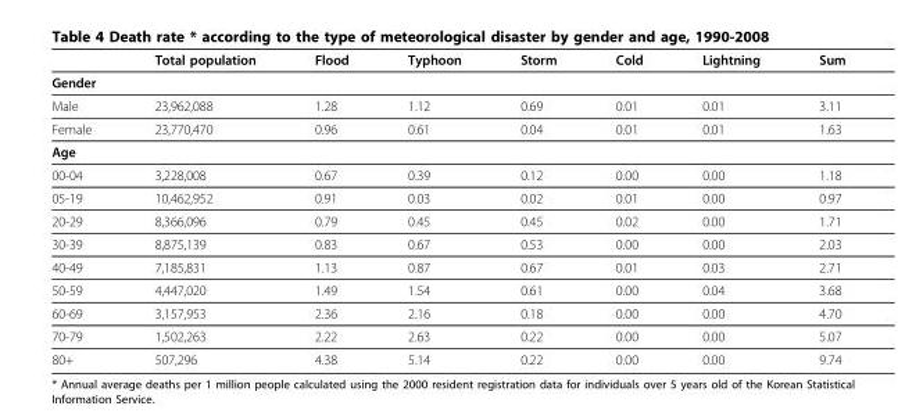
<table><thead><tr><td></td><td>Total population</td><td>Flood</td><td>Typhoon</td><td>Storm</td><td>Cold</td><td>Lightning</td><td>Sum</td></tr></thead><tbody><tr><td colspan="8">Gender</td></tr><tr><td>Male</td><td>23,962,088</td><td>1.28</td><td>1.12</td><td>0.69</td><td>0.01</td><td>0.01</td><td>3.11</td></tr><tr><td>Female</td><td>23,770,470</td><td>0.96</td><td>0.61</td><td>0.04</td><td>0.01</td><td>0.01</td><td>1.63</td></tr><tr><td colspan="8">Age</td></tr><tr><td>00-04</td><td>3,228,008</td><td>0.67</td><td>0.39</td><td>0.12</td><td>0.00</td><td>0.00</td><td>1.18</td></tr><tr><td>05-19</td><td>10,462,952</td><td>0.91</td><td>0.03</td><td>0.02</td><td>0.01</td><td>0.00</td><td>0.97</td></tr><tr><td>20-29</td><td>8,366,096</td><td>0.79</td><td>0.45</td><td>0.45</td><td>0.02</td><td>0.00</td><td>1.71</td></tr><tr><td>30-39</td><td>8,875,139</td><td>0.83</td><td>0.67</td><td>0.53</td><td>0.00</td><td>0.00</td><td>2.03</td></tr><tr><td>40-49</td><td>7,185,831</td><td>1.13</td><td>0.87</td><td>0.67</td><td>0.01</td><td>0.03</td><td>2.71</td></tr><tr><td>50-59</td><td>4,447,020</td><td>1.49</td><td>1.54</td><td>0.61</td><td>0.00</td><td>0.04</td><td>3.68</td></tr><tr><td>60-69</td><td>3,157,953</td><td>2.36</td><td>2.16</td><td>0.18</td><td>0.00</td><td>0.00</td><td>4.70</td></tr><tr><td>70-79</td><td>1,502,263</td><td>2.22</td><td>2.63</td><td>0.22</td><td>0.00</td><td>0.00</td><td>5.07</td></tr><tr><td>80+</td><td>507,296</td><td>4.38</td><td>5.14</td><td>0.22</td><td>0.00</td><td>0.00</td><td>9.74</td></tr></tbody></table>